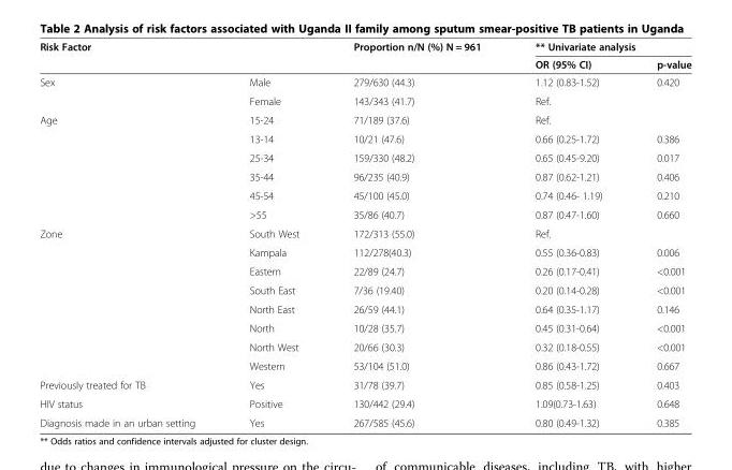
<table><thead><tr><td rowspan="2">Risk Factor</td><td rowspan="2"></td><td rowspan="2">Proportion n/N (%) N = 961</td><td colspan="2">** Univariate analysis</td></tr><tr><td>OR (95% CI)</td><td>p-value</td></tr></thead><tbody><tr><td rowspan="2">Sex</td><td>Male</td><td>279/630 (44.3)</td><td>1.12 (0.83-1.52)</td><td>0.420</td></tr><tr><td>Female</td><td>143/343 (41.7)</td><td>Ref.</td><td></td></tr><tr><td rowspan="6">Age</td><td>15-24</td><td>71/189 (37.6)</td><td>Ref.</td><td></td></tr><tr><td>13-14</td><td>10/21 (47.6)</td><td>0.66 (0.25-1.72)</td><td>0.386</td></tr><tr><td>25-34</td><td>159/330 (48.2)</td><td>0.65 (0.45-9.20)</td><td>0.017</td></tr><tr><td>35-44</td><td>96/235 (40.9)</td><td>0.87 (0.62-1.21)</td><td>0.406</td></tr><tr><td>45-54</td><td>45/100 (45.0)</td><td>0.74 (0.46- 1.19)</td><td>0.210</td></tr><tr><td>&gt;55</td><td>35/86 (40.7)</td><td>0.87 (0.47-1.60)</td><td>0.660</td></tr><tr><td rowspan="8">Zone</td><td>South West</td><td>172/313 (55.0)</td><td>Ref.</td><td></td></tr><tr><td>Kampala</td><td>112/278(40.3)</td><td>0.55 (0.36-0.83)</td><td>0.006</td></tr><tr><td>Eastern</td><td>22/89 (24.7)</td><td>0.26 (0.17-0.41)</td><td>&lt;0.001</td></tr><tr><td>South East</td><td>7/36 (19.40)</td><td>0.20 (0.14-0.28)</td><td>&lt;0.001</td></tr><tr><td>North East</td><td>26/59 (44.1)</td><td>0.64 (0.35-1.17)</td><td>0.146</td></tr><tr><td>North</td><td>10/28 (35.7)</td><td>0.45 (0.31-0.64)</td><td>&lt;0.001</td></tr><tr><td>North West</td><td>20/66 (30.3)</td><td>0.32 (0.18-0.55)</td><td>&lt;0.001</td></tr><tr><td>Western</td><td>53/104 (51.0)</td><td>0.86 (0.43-1.72)</td><td>0.667</td></tr><tr><td>Previously treated for TB</td><td>Yes</td><td>31/78 (39.7)</td><td>0.85 (0.58-1.25)</td><td>0.403</td></tr><tr><td>HIV status</td><td>Positive</td><td>130/442 (29.4)</td><td>1.09(0.73-1.63)</td><td>0.648</td></tr><tr><td>Diagnosis made in an urban setting</td><td>Yes</td><td>267/585 (45.6)</td><td>0.80 (0.49-1.32)</td><td>0.385</td></tr></tbody></table>